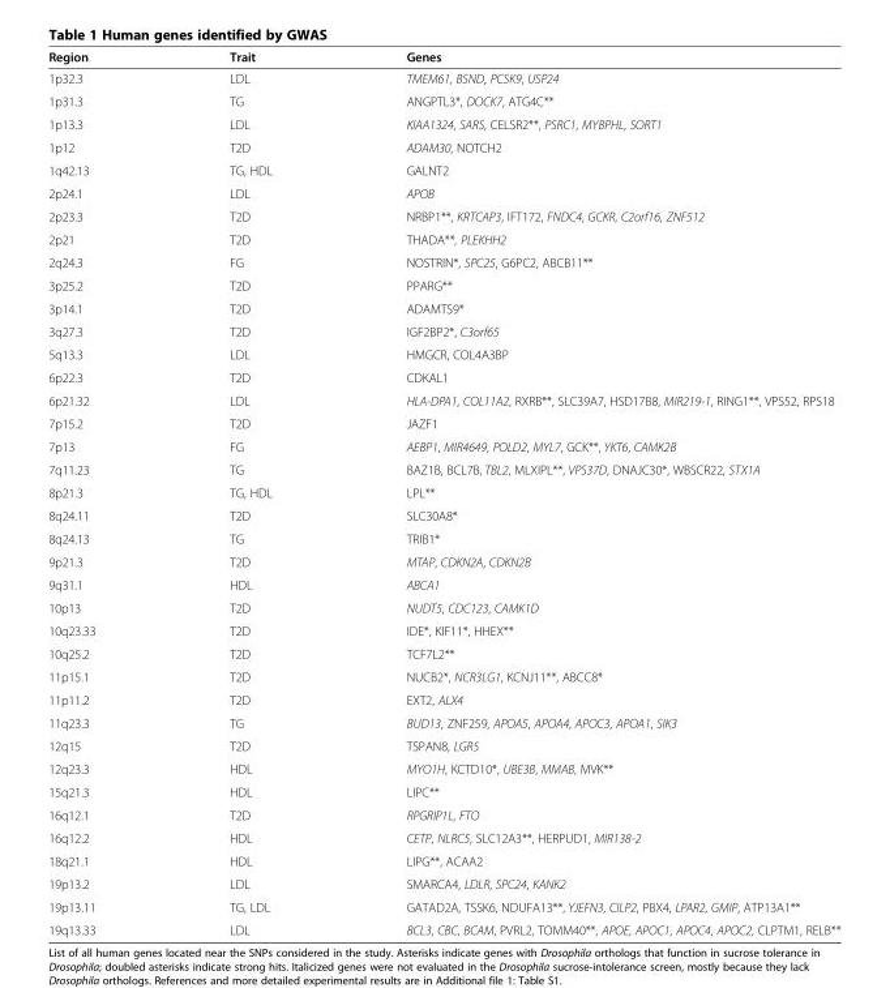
<table><thead><tr><td>Region</td><td>Trait</td><td>Genes</td></tr></thead><tbody><tr><td>1p32.3</td><td>LDL</td><td>TMEM61, BSND, PCSK9, USP24</td></tr><tr><td>1p31.3</td><td>TG</td><td>ANGPTL3*, DOCK7, ATG4C**</td></tr><tr><td>1p13.3</td><td>LDL</td><td>KIAA1324, SARS, CELSR2**, PSRC1, MYBPHL, SORT1</td></tr><tr><td>1p12</td><td>T2D</td><td>ADAM30, NOTCH2</td></tr><tr><td>1q42.13</td><td>TG, HDL</td><td>GALNT2</td></tr><tr><td>2p24.1</td><td>LDL</td><td>APOB</td></tr><tr><td>2p23.3</td><td>T2D</td><td>NRBP1**, KRTCAP3, IFT172, FNDC4, GCKR, C2orf16, ZNF512</td></tr><tr><td>2p21</td><td>T2D</td><td>THADA**, PLEKHH2</td></tr><tr><td>2q24.3</td><td>FG</td><td>NOSTRIN*, SPC25, G6PC2, ABCB11**</td></tr><tr><td>3p25.2</td><td>T2D</td><td>PPARG**</td></tr><tr><td>3p14.1</td><td>T2D</td><td>ADAMTS9*</td></tr><tr><td>3q27.3</td><td>T2D</td><td>IGF2BP2*, C3orf65</td></tr><tr><td>5q13.3</td><td>LDL</td><td>HMGCR, COL4A3BP</td></tr><tr><td>6p22.3</td><td>T2D</td><td>CDKAL1</td></tr><tr><td>6p21.32</td><td>LDL</td><td>HLA-DPA1, COL11A2, RXRB**, SLC39A7, HSD17B8, MIR219-1, RING1**, VPS52, RPS18</td></tr><tr><td>7p15.2</td><td>T2D</td><td>JAZF1</td></tr><tr><td>7p13</td><td>FG</td><td>AEBP1, MIR4649, POLD2, MYL7, GCK**, YKT6, CAMK2B</td></tr><tr><td>7q11.23</td><td>TG</td><td>BAZ1B, BCL7B, TBL2, MLXIPL**, VPS37D, DNAJC30*, WBSCR22, STX1A</td></tr><tr><td>8p21.3</td><td>TG, HDL</td><td>LPL**</td></tr><tr><td>8q24.11</td><td>T2D</td><td>SLC30A8*</td></tr><tr><td>8q24.13</td><td>TG</td><td>TRIB1*</td></tr><tr><td>9p21.3</td><td>T2D</td><td>MTAP, CDKN2A, CDKN2B</td></tr><tr><td>9q31.1</td><td>HDL</td><td>ABCA1</td></tr><tr><td>10p13</td><td>T2D</td><td>NUDT5, CDC123, CAMK1D</td></tr><tr><td>10q23.33</td><td>T2D</td><td>IDE*, KIF11*, HHEX**</td></tr><tr><td>10q25.2</td><td>T2D</td><td>TCF7L2**</td></tr><tr><td>11p15.1</td><td>T2D</td><td>NUCB2*, NCR3LG1, KCNJ11**, ABCC8*</td></tr><tr><td>11p11.2</td><td>T2D</td><td>EXT2, ALX4</td></tr><tr><td>11q23.3</td><td>TG</td><td>BUD13, ZNF259, APOA5, APOA4, APOC3, APOA1, SIK3</td></tr><tr><td>12q15</td><td>T2D</td><td>TSPAN8, LGR5</td></tr><tr><td>12q23.3</td><td>HDL</td><td>MYO1H, KCTD10*, UBE3B, MMAB, MVK**</td></tr><tr><td>15q21.3</td><td>HDL</td><td>LIPC**</td></tr><tr><td>16q12.1</td><td>T2D</td><td>RPGRIP1L, FTO</td></tr><tr><td>16q12.2</td><td>HDL</td><td>CETP, NLRC5, SLC12A3**, HERPUD1, MIR138-2</td></tr><tr><td>18q21.1</td><td>HDL</td><td>LIPG**, ACAA2</td></tr><tr><td>19p13.2</td><td>LDL</td><td>SMARCA4, LDLR, SPC24, KANK2</td></tr><tr><td>19p13.11</td><td>TG, LDL</td><td>GATAD2A, TSSK6, NDUFA13**, YJEFN3, CILP2, PBX4, LPAR2, GMIP, ATP13A1**</td></tr><tr><td>19q13.33</td><td>LDL</td><td>BCL3, CBC, BCAM, PVRL2, TOMM40**, APOE, APOC1, APOC4, APOC2, CLPTM1, RELB**</td></tr></tbody></table>